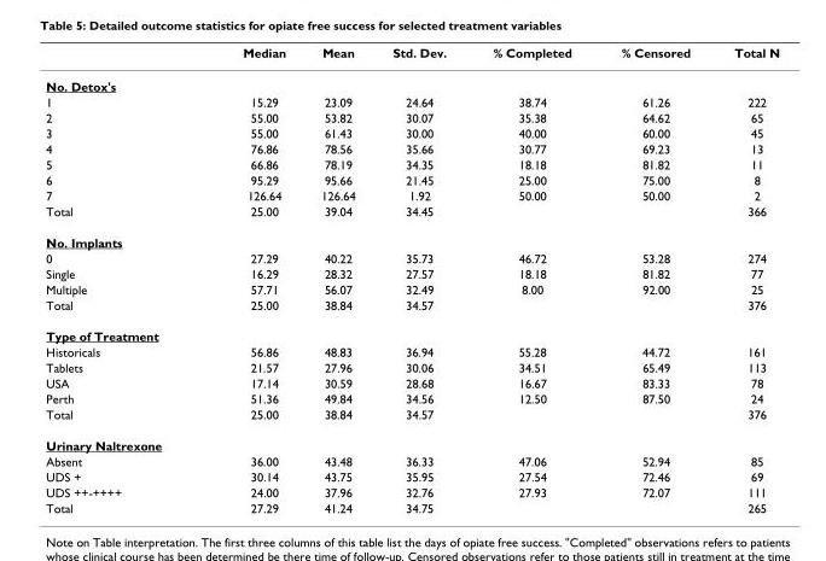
<table><thead><tr><td></td><td>Median</td><td>Mean</td><td>Std. Dev.</td><td>% Completed</td><td>% Censored</td><td>Total N</td></tr></thead><tbody><tr><td colspan="7">No. Detox&#x27;s</td></tr><tr><td>1</td><td>15.29</td><td>23.09</td><td>24.64</td><td>38.74</td><td>61.26</td><td>222</td></tr><tr><td>2</td><td>55.00</td><td>53.82</td><td>30.07</td><td>35.38</td><td>64.62</td><td>65</td></tr><tr><td>3</td><td>55.00</td><td>61.43</td><td>30.00</td><td>40.00</td><td>60.00</td><td>45</td></tr><tr><td>4</td><td>76.86</td><td>78.56</td><td>35.66</td><td>30.77</td><td>69.23</td><td>13</td></tr><tr><td>5</td><td>66.86</td><td>78.19</td><td>34.35</td><td>18.18</td><td>81.82</td><td>11</td></tr><tr><td>6</td><td>95.29</td><td>95.66</td><td>21.45</td><td>25.00</td><td>75.00</td><td>8</td></tr><tr><td>7</td><td>126.64</td><td>126.64</td><td>1.92</td><td>50.00</td><td>50.00</td><td>2</td></tr><tr><td>Total</td><td>25.00</td><td>39.04</td><td>34.45</td><td></td><td></td><td>366</td></tr><tr><td colspan="7">No. Implants</td></tr><tr><td>0</td><td>27.29</td><td>40.22</td><td>35.73</td><td>46.72</td><td>53.28</td><td>274</td></tr><tr><td>Single</td><td>16.29</td><td>28.32</td><td>27.57</td><td>18.18</td><td>81.82</td><td>77</td></tr><tr><td>Multiple</td><td>57.71</td><td>56.07</td><td>32.49</td><td>8.00</td><td>92.00</td><td>25</td></tr><tr><td>Total</td><td>25.00</td><td>38.84</td><td>34.57</td><td></td><td></td><td>376</td></tr><tr><td colspan="7">Type of Treatment</td></tr><tr><td>Historicals</td><td>56.86</td><td>48.83</td><td>36.94</td><td>55.28</td><td>44.72</td><td>161</td></tr><tr><td>Tablets</td><td>21.57</td><td>27.96</td><td>30.06</td><td>34.51</td><td>65.49</td><td>113</td></tr><tr><td>USA</td><td>17.14</td><td>30.59</td><td>28.68</td><td>16.67</td><td>83.33</td><td>78</td></tr><tr><td>Perth</td><td>51.36</td><td>49.84</td><td>34.56</td><td>12.50</td><td>87.50</td><td>24</td></tr><tr><td>Total</td><td>25.00</td><td>38.84</td><td>34.57</td><td></td><td></td><td>376</td></tr><tr><td colspan="7">Urinary Naltrexone</td></tr><tr><td>Absent</td><td>36.00</td><td>43.48</td><td>36.33</td><td>47.06</td><td>52.94</td><td>85</td></tr><tr><td>UDS +</td><td>30.14</td><td>43.75</td><td>35.95</td><td>27.54</td><td>72.46</td><td>69</td></tr><tr><td>UDS ++-++++</td><td>24.00</td><td>37.96</td><td>32.76</td><td>27.93</td><td>72.07</td><td>111</td></tr><tr><td>Total</td><td>27.29</td><td>41.24</td><td>34.75</td><td></td><td></td><td>265</td></tr></tbody></table>